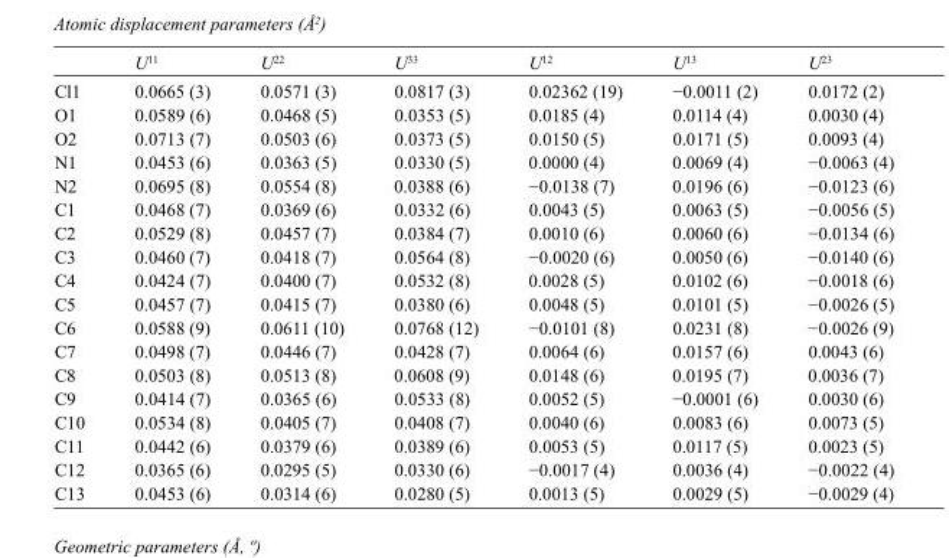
<table><thead><tr><td></td><td>U<sup>11</sup></td><td>U<sup>22</sup></td><td>U<sup>33</sup></td><td>U<sup>12</sup></td><td>U<sup>13</sup></td><td>U<sup>23</sup></td></tr></thead><tbody><tr><td>Cl1</td><td>0.0665 (3)</td><td>0.0571 (3)</td><td>0.0817 (3)</td><td>0.02362 (19)</td><td>−0.0011 (2)</td><td>0.0172 (2)</td></tr><tr><td>O1</td><td>0.0589 (6)</td><td>0.0468 (5)</td><td>0.0353 (5)</td><td>0.0185 (4)</td><td>0.0114 (4)</td><td>0.0030 (4)</td></tr><tr><td>O2</td><td>0.0713 (7)</td><td>0.0503 (6)</td><td>0.0373 (5)</td><td>0.0150 (5)</td><td>0.0171 (5)</td><td>0.0093 (4)</td></tr><tr><td>N1</td><td>0.0453 (6)</td><td>0.0363 (5)</td><td>0.0330 (5)</td><td>0.0000 (4)</td><td>0.0069 (4)</td><td>−0.0063 (4)</td></tr><tr><td>N2</td><td>0.0695 (8)</td><td>0.0554 (8)</td><td>0.0388 (6)</td><td>−0.0138 (7)</td><td>0.0196 (6)</td><td>−0.0123 (6)</td></tr><tr><td>C1</td><td>0.0468 (7)</td><td>0.0369 (6)</td><td>0.0332 (6)</td><td>0.0043 (5)</td><td>0.0063 (5)</td><td>−0.0056 (5)</td></tr><tr><td>C2</td><td>0.0529 (8)</td><td>0.0457 (7)</td><td>0.0384 (7)</td><td>0.0010 (6)</td><td>0.0060 (6)</td><td>−0.0134 (6)</td></tr><tr><td>C3</td><td>0.0460 (7)</td><td>0.0418 (7)</td><td>0.0564 (8)</td><td>−0.0020 (6)</td><td>0.0050 (6)</td><td>−0.0140 (6)</td></tr><tr><td>C4</td><td>0.0424 (7)</td><td>0.0400 (7)</td><td>0.0532 (8)</td><td>0.0028 (5)</td><td>0.0102 (6)</td><td>−0.0018 (6)</td></tr><tr><td>C5</td><td>0.0457 (7)</td><td>0.0415 (7)</td><td>0.0380 (6)</td><td>0.0048 (5)</td><td>0.0101 (5)</td><td>−0.0026 (5)</td></tr><tr><td>C6</td><td>0.0588 (9)</td><td>0.0611 (10)</td><td>0.0768 (12)</td><td>−0.0101 (8)</td><td>0.0231 (8)</td><td>−0.0026 (9)</td></tr><tr><td>C7</td><td>0.0498 (7)</td><td>0.0446 (7)</td><td>0.0428 (7)</td><td>0.0064 (6)</td><td>0.0157 (6)</td><td>0.0043 (6)</td></tr><tr><td>C8</td><td>0.0503 (8)</td><td>0.0513 (8)</td><td>0.0608 (9)</td><td>0.0148 (6)</td><td>0.0195 (7)</td><td>0.0036 (7)</td></tr><tr><td>C9</td><td>0.0414 (7)</td><td>0.0365 (6)</td><td>0.0533 (8)</td><td>0.0052 (5)</td><td>−0.0001 (6)</td><td>0.0030 (6)</td></tr><tr><td>C10</td><td>0.0534 (8)</td><td>0.0405 (7)</td><td>0.0408 (7)</td><td>0.0040 (6)</td><td>0.0083 (6)</td><td>0.0073 (5)</td></tr><tr><td>C11</td><td>0.0442 (6)</td><td>0.0379 (6)</td><td>0.0389 (6)</td><td>0.0053 (5)</td><td>0.0117 (5)</td><td>0.0023 (5)</td></tr><tr><td>C12</td><td>0.0365 (6)</td><td>0.0295 (5)</td><td>0.0330 (6)</td><td>−0.0017 (4)</td><td>0.0036 (4)</td><td>−0.0022 (4)</td></tr><tr><td>C13</td><td>0.0453 (6)</td><td>0.0314 (6)</td><td>0.0280 (5)</td><td>0.0013 (5)</td><td>0.0029 (5)</td><td>−0.0029 (4)</td></tr></tbody></table>